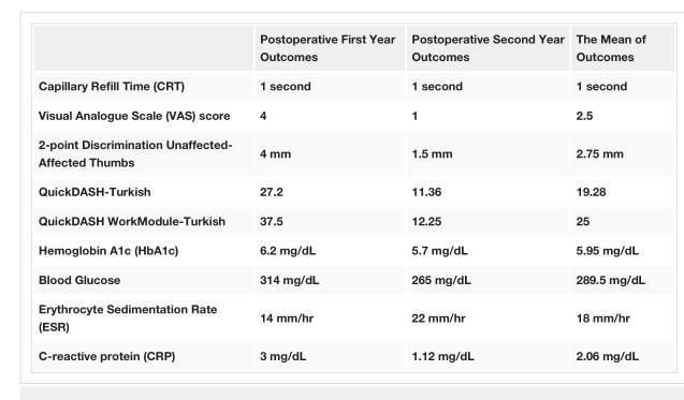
<table><thead><tr><td></td><td>Postoperative First Year Outcomes</td><td>Postoperative Second Year Outcomes</td><td>The Mean of Outcomes</td></tr></thead><tbody><tr><td>Capillary Refill Time (CRT)</td><td>1 second</td><td>1 second</td><td>1 second</td></tr><tr><td>Visual Analogue Scale (VAS) score</td><td>4</td><td>1</td><td>2.5</td></tr><tr><td>2-point Discrimination Unaffected- Affected Thumbs</td><td>4 mm</td><td>1.5 mm</td><td>2.75 mm</td></tr><tr><td>QuickDASH-Turkish</td><td>27.2</td><td>11.36</td><td>19.28</td></tr><tr><td>QuickDASH WorkModule-Turkish</td><td>37.5</td><td>12.25</td><td>25</td></tr><tr><td>Hemoglobin A1c (HbA1c)</td><td>6.2 mg/dL</td><td>5.7 mg/dL</td><td>5.95 mg/dL</td></tr><tr><td>Blood Glucose</td><td>314 mg/dL</td><td>265 mg/dL</td><td>289.5 mg/dL</td></tr><tr><td>Erythrocyte Sedimentation Rate (ESR)</td><td>14 mm/hr</td><td>22 mm/hr</td><td>18 mm/hr</td></tr><tr><td>C-reactive protein (CRP)</td><td>3 mg/dL</td><td>1.12 mg/dL</td><td>2.06 mg/dL</td></tr></tbody></table>